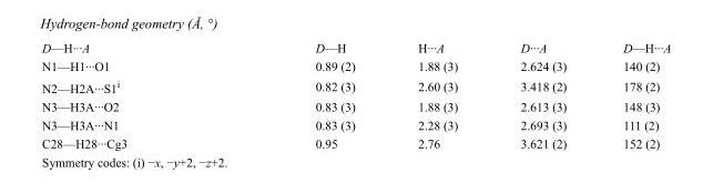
<table><tbody><tr><td>D—H···A</td><td>D—H</td><td>H···A</td><td>D···A</td><td>D—H···A</td></tr><tr><td>N1—H1···O1</td><td>0.89 (2)</td><td>1.88 (3)</td><td>2.624 (3)</td><td>140 (2)</td></tr><tr><td>N2—H2A···S1<sup>i</sup></td><td>0.82 (3)</td><td>2.60 (3)</td><td>3.418 (2)</td><td>178 (2)</td></tr><tr><td>N3—H3A···O2</td><td>0.83 (3)</td><td>1.88 (3)</td><td>2.613 (3)</td><td>148 (3)</td></tr><tr><td>N3—H3A···N1</td><td>0.83 (3)</td><td>2.28 (3)</td><td>2.693 (3)</td><td>111 (2)</td></tr><tr><td>C28—H28···Cg3</td><td>0.95</td><td>2.76</td><td>3.621 (2)</td><td>152 (2)</td></tr></tbody></table>